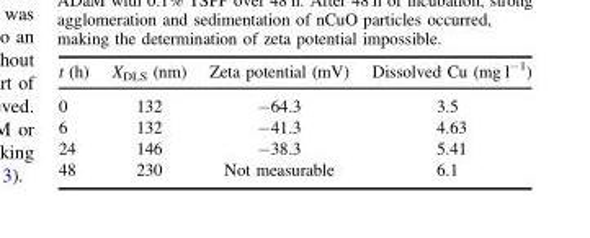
<table><thead><tr><td>t (h)</td><td>X<sub>DLS</sub> (nm)</td><td>Zeta potential (mV)</td><td>Dissolved Cu (mg l<sup>−1</sup>)</td></tr></thead><tbody><tr><td>0</td><td>132</td><td>−64.3</td><td>3.5</td></tr><tr><td>6</td><td>132</td><td>−41.3</td><td>4.63</td></tr><tr><td>24</td><td>146</td><td>−38.3</td><td>5.41</td></tr><tr><td>48</td><td>230</td><td>Not measurable</td><td>6.1</td></tr></tbody></table>